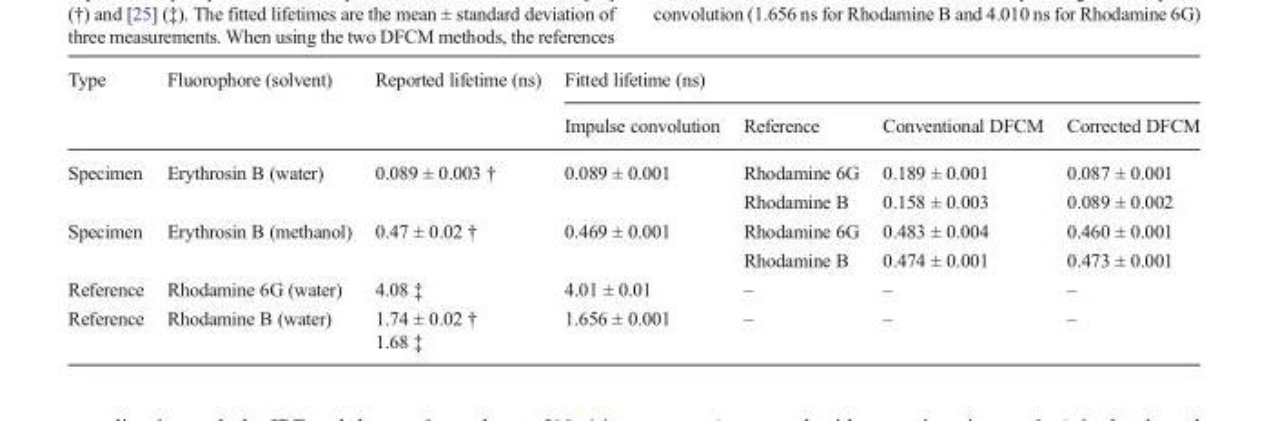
<table><thead><tr><td rowspan="2">Type</td><td rowspan="2">Fluorophore (solvent)</td><td rowspan="2">Reported lifetime (ns)</td><td colspan="4">Fitted lifetime (ns)</td></tr><tr><td>Impulse convolution</td><td>Reference</td><td>Conventional DFCM</td><td>Corrected DFCM</td></tr></thead><tbody><tr><td rowspan="2">Specimen</td><td rowspan="2">Erythrosin B (water)</td><td rowspan="2">0.089 ± 0.003 †</td><td rowspan="2">0.089 ± 0.001</td><td>Rhodamine 6G</td><td>0.189 ± 0.001</td><td>0.087 ± 0.001</td></tr><tr><td>Rhodamine B</td><td>0.158 ± 0.003</td><td>0.089 ± 0.002</td></tr><tr><td rowspan="2">Specimen</td><td rowspan="2">Erythrosin B (methanol)</td><td rowspan="2">0.47 ± 0.02 †</td><td rowspan="2">0.469 ± 0.001</td><td>Rhodamine 6G</td><td>0.483 ± 0.004</td><td>0.460 ± 0.001</td></tr><tr><td>Rhodamine B</td><td>0.474 ± 0.001</td><td>0.473 ± 0.001</td></tr><tr><td>Reference</td><td>Rhodamine 6G (water)</td><td>4.08 ‡</td><td>4.01 ± 0.01</td><td>–</td><td>–</td><td>–</td></tr><tr><td>Reference</td><td>Rhodamine B (water)</td><td>1.74 ± 0.02 † 1.68 ‡</td><td>1.656 ± 0.001</td><td>–</td><td>–</td><td>–</td></tr></tbody></table>